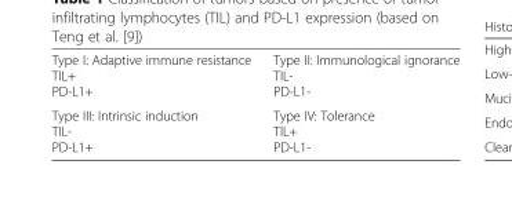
<table><tbody><tr><td>Type I: Adaptive immune resistance TIL+ PD-L1+</td><td>Type II: Immunological ignorance TIL- PD-L1-</td></tr><tr><td>Type III: Intrinsic induction TIL- PD-L1+</td><td>Type IV: Tolerance TIL+ PD-L1-</td></tr></tbody></table>